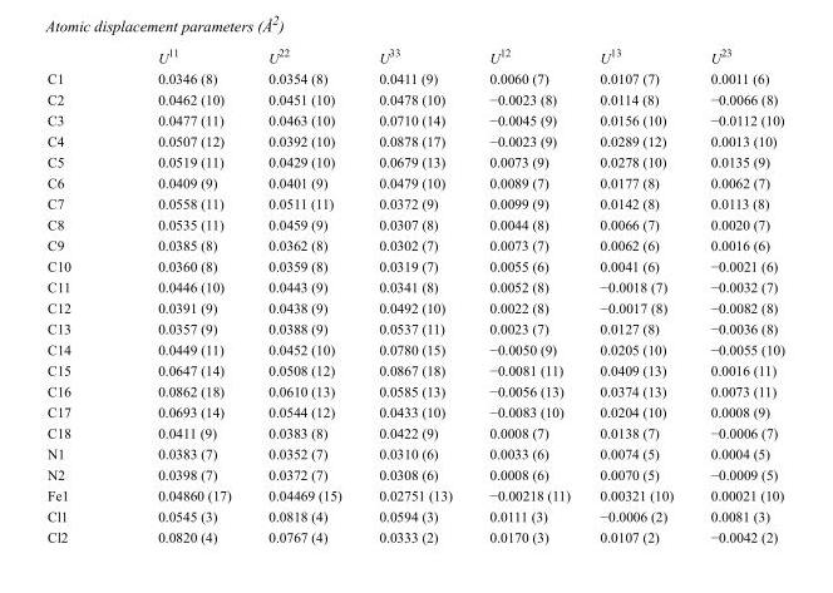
<table><thead><tr><td></td><td>U<sup>11</sup></td><td>U<sup>22</sup></td><td>U<sup>33</sup></td><td>U<sup>12</sup></td><td>U<sup>13</sup></td><td>U<sup>23</sup></td></tr></thead><tbody><tr><td>C1</td><td>0.0346 (8)</td><td>0.0354 (8)</td><td>0.0411 (9)</td><td>0.0060 (7)</td><td>0.0107 (7)</td><td>0.0011 (6)</td></tr><tr><td>C2</td><td>0.0462 (10)</td><td>0.0451 (10)</td><td>0.0478 (10)</td><td>−0.0023 (8)</td><td>0.0114 (8)</td><td>−0.0066 (8)</td></tr><tr><td>C3</td><td>0.0477 (11)</td><td>0.0463 (10)</td><td>0.0710 (14)</td><td>−0.0045 (9)</td><td>0.0156 (10)</td><td>−0.0112 (10)</td></tr><tr><td>C4</td><td>0.0507 (12)</td><td>0.0392 (10)</td><td>0.0878 (17)</td><td>−0.0023 (9)</td><td>0.0289 (12)</td><td>0.0013 (10)</td></tr><tr><td>C5</td><td>0.0519 (11)</td><td>0.0429 (10)</td><td>0.0679 (13)</td><td>0.0073 (9)</td><td>0.0278 (10)</td><td>0.0135 (9)</td></tr><tr><td>C6</td><td>0.0409 (9)</td><td>0.0401 (9)</td><td>0.0479 (10)</td><td>0.0089 (7)</td><td>0.0177 (8)</td><td>0.0062 (7)</td></tr><tr><td>C7</td><td>0.0558 (11)</td><td>0.0511 (11)</td><td>0.0372 (9)</td><td>0.0099 (9)</td><td>0.0142 (8)</td><td>0.0113 (8)</td></tr><tr><td>C8</td><td>0.0535 (11)</td><td>0.0459 (9)</td><td>0.0307 (8)</td><td>0.0044 (8)</td><td>0.0066 (7)</td><td>0.0020 (7)</td></tr><tr><td>C9</td><td>0.0385 (8)</td><td>0.0362 (8)</td><td>0.0302 (7)</td><td>0.0073 (7)</td><td>0.0062 (6)</td><td>0.0016 (6)</td></tr><tr><td>C10</td><td>0.0360 (8)</td><td>0.0359 (8)</td><td>0.0319 (7)</td><td>0.0055 (6)</td><td>0.0041 (6)</td><td>−0.0021 (6)</td></tr><tr><td>C11</td><td>0.0446 (10)</td><td>0.0443 (9)</td><td>0.0341 (8)</td><td>0.0052 (8)</td><td>−0.0018 (7)</td><td>−0.0032 (7)</td></tr><tr><td>C12</td><td>0.0391 (9)</td><td>0.0438 (9)</td><td>0.0492 (10)</td><td>0.0022 (8)</td><td>−0.0017 (8)</td><td>−0.0082 (8)</td></tr><tr><td>C13</td><td>0.0357 (9)</td><td>0.0388 (9)</td><td>0.0537 (11)</td><td>0.0023 (7)</td><td>0.0127 (8)</td><td>−0.0036 (8)</td></tr><tr><td>C14</td><td>0.0449 (11)</td><td>0.0452 (10)</td><td>0.0780 (15)</td><td>−0.0050 (9)</td><td>0.0205 (10)</td><td>−0.0055 (10)</td></tr><tr><td>C15</td><td>0.0647 (14)</td><td>0.0508 (12)</td><td>0.0867 (18)</td><td>−0.0081 (11)</td><td>0.0409 (13)</td><td>0.0016 (11)</td></tr><tr><td>C16</td><td>0.0862 (18)</td><td>0.0610 (13)</td><td>0.0585 (13)</td><td>−0.0056 (13)</td><td>0.0374 (13)</td><td>0.0073 (11)</td></tr><tr><td>C17</td><td>0.0693 (14)</td><td>0.0544 (12)</td><td>0.0433 (10)</td><td>−0.0083 (10)</td><td>0.0204 (10)</td><td>0.0008 (9)</td></tr><tr><td>C18</td><td>0.0411 (9)</td><td>0.0383 (8)</td><td>0.0422 (9)</td><td>0.0008 (7)</td><td>0.0138 (7)</td><td>−0.0006 (7)</td></tr><tr><td>N1</td><td>0.0383 (7)</td><td>0.0352 (7)</td><td>0.0310 (6)</td><td>0.0033 (6)</td><td>0.0074 (5)</td><td>0.0004 (5)</td></tr><tr><td>N2</td><td>0.0398 (7)</td><td>0.0372 (7)</td><td>0.0308 (6)</td><td>0.0008 (6)</td><td>0.0070 (5)</td><td>−0.0009 (5)</td></tr><tr><td>Fe1</td><td>0.04860 (17)</td><td>0.04469 (15)</td><td>0.02751 (13)</td><td>−0.00218 (11)</td><td>0.00321 (10)</td><td>0.00021 (10)</td></tr><tr><td>Cl1</td><td>0.0545 (3)</td><td>0.0818 (4)</td><td>0.0594 (3)</td><td>0.0111 (3)</td><td>−0.0006 (2)</td><td>0.0081 (3)</td></tr><tr><td>Cl2</td><td>0.0820 (4)</td><td>0.0767 (4)</td><td>0.0333 (2)</td><td>0.0170 (3)</td><td>0.0107 (2)</td><td>−0.0042 (2)</td></tr></tbody></table>